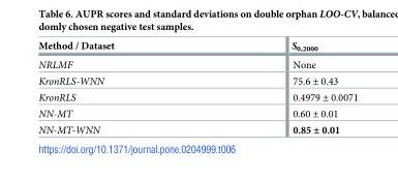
<table><thead><tr><td>Method / Dataset</td><td>S<sub>0,2000</sub></td></tr></thead><tbody><tr><td>NRLMF</td><td>None</td></tr><tr><td>KronRLS-WNN</td><td>75.6 ± 0.43</td></tr><tr><td>KronRLS</td><td>0.4979 ± 0.0071</td></tr><tr><td>NN-MT</td><td>0.60 ± 0.01</td></tr><tr><td>NN-MT-WNN</td><td>0.85 ± 0.01</td></tr></tbody></table>